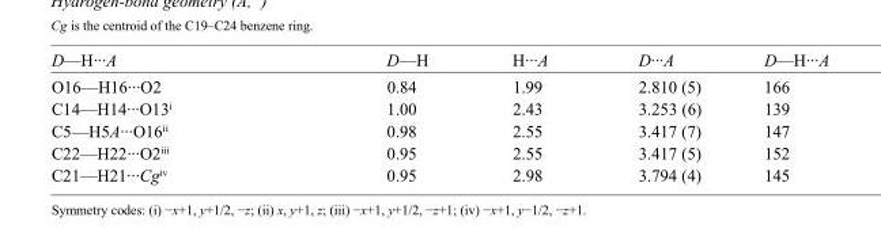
<table><tbody><tr><td>D—H···A</td><td>D—H</td><td>H···A</td><td>D···A</td><td>D—H···A</td></tr><tr><td>O16—H16···O2</td><td>0.84</td><td>1.99</td><td>2.810 (5)</td><td>166</td></tr><tr><td>C14—H14···O13<sup>i</sup></td><td>1.00</td><td>2.43</td><td>3.253 (6)</td><td>139</td></tr><tr><td>C5—H5A···O16<sup>ii</sup></td><td>0.98</td><td>2.55</td><td>3.417 (7)</td><td>147</td></tr><tr><td>C22—H22···O2<sup>iii</sup></td><td>0.95</td><td>2.55</td><td>3.417 (5)</td><td>152</td></tr><tr><td>C21—H21···Cg<sup>iv</sup></td><td>0.95</td><td>2.98</td><td>3.794 (4)</td><td>145</td></tr></tbody></table>